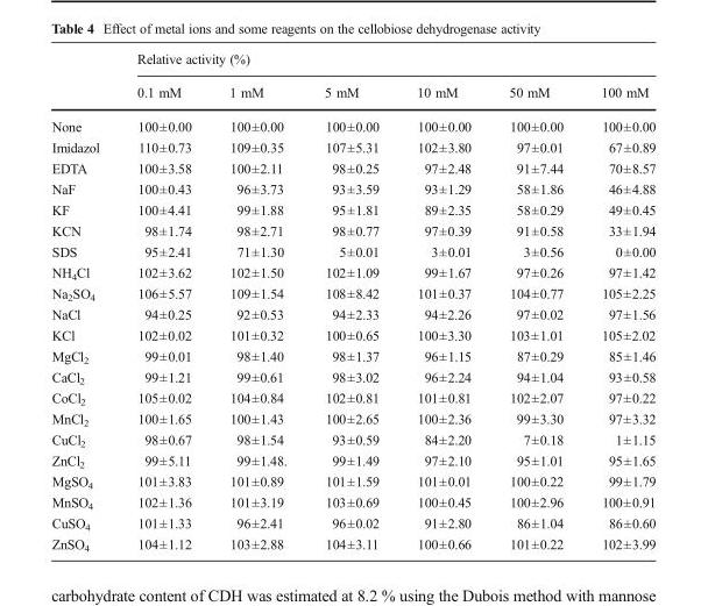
<table><thead><tr><td rowspan="2"></td><td colspan="6">Relative activity (%)</td></tr><tr><td>0.1 mM</td><td>1 mM</td><td>5 mM</td><td>10 mM</td><td>50 mM</td><td>100 mM</td></tr></thead><tbody><tr><td>None</td><td>100±0.00</td><td>100±0.00</td><td>100±0.00</td><td>100±0.00</td><td>100±0.00</td><td>100±0.00</td></tr><tr><td>Imidazol</td><td>110±0.73</td><td>109±0.35</td><td>107±5.31</td><td>102±3.80</td><td>97±0.01</td><td>67±0.89</td></tr><tr><td>EDTA</td><td>100±3.58</td><td>100±2.11</td><td>98±0.25</td><td>97±2.48</td><td>91±7.44</td><td>70±8.57</td></tr><tr><td>NaF</td><td>100±0.43</td><td>96±3.73</td><td>93±3.59</td><td>93±1.29</td><td>58±1.86</td><td>46±4.88</td></tr><tr><td>KF</td><td>100±4.41</td><td>99±1.88</td><td>95±1.81</td><td>89±2.35</td><td>58±0.29</td><td>49±0.45</td></tr><tr><td>KCN</td><td>98±1.74</td><td>98±2.71</td><td>98±0.77</td><td>97±0.39</td><td>91±0.58</td><td>33±1.94</td></tr><tr><td>SDS</td><td>95±2.41</td><td>71±1.30</td><td>5±0.01</td><td>3±0.01</td><td>3±0.56</td><td>0±0.00</td></tr><tr><td>NH<sub>4</sub>Cl</td><td>102±3.62</td><td>102±1.50</td><td>102±1.09</td><td>99±1.67</td><td>97±0.26</td><td>97±1.42</td></tr><tr><td>Na<sub>2</sub>SO<sub>4</sub></td><td>106±5.57</td><td>109±1.54</td><td>108±8.42</td><td>101±0.37</td><td>104±0.77</td><td>105±2.25</td></tr><tr><td>NaCl</td><td>94±0.25</td><td>92±0.53</td><td>94±2.33</td><td>94±2.26</td><td>97±0.02</td><td>97±1.56</td></tr><tr><td>KCl</td><td>102±0.02</td><td>101±0.32</td><td>100±0.65</td><td>100±3.30</td><td>103±1.01</td><td>105±2.02</td></tr><tr><td>MgCl<sub>2</sub></td><td>99±0.01</td><td>98±1.40</td><td>98±1.37</td><td>96±1.15</td><td>87±0.29</td><td>85±1.46</td></tr><tr><td>CaCl<sub>2</sub></td><td>99±1.21</td><td>99±0.61</td><td>98±3.02</td><td>96±2.24</td><td>94±1.04</td><td>93±0.58</td></tr><tr><td>CoCl<sub>2</sub></td><td>105±0.02</td><td>104±0.84</td><td>102±0.81</td><td>101±0.81</td><td>102±2.07</td><td>97±0.22</td></tr><tr><td>MnCl<sub>2</sub></td><td>100±1.65</td><td>100±1.43</td><td>100±2.65</td><td>100±2.36</td><td>99±3.30</td><td>97±3.32</td></tr><tr><td>CuCl<sub>2</sub></td><td>98±0.67</td><td>98±1.54</td><td>93±0.59</td><td>84±2.20</td><td>7±0.18</td><td>1±1.15</td></tr><tr><td>ZnCl<sub>2</sub></td><td>99±5.11</td><td>99±1.48.</td><td>99±1.49</td><td>97±2.10</td><td>95±1.01</td><td>95±1.65</td></tr><tr><td>MgSO<sub>4</sub></td><td>101±3.83</td><td>101±0.89</td><td>101±1.59</td><td>101±0.01</td><td>100±0.22</td><td>99±1.79</td></tr><tr><td>MnSO<sub>4</sub></td><td>102±1.36</td><td>101±3.19</td><td>103±0.69</td><td>100±0.45</td><td>100±2.96</td><td>100±0.91</td></tr><tr><td>CuSO<sub>4</sub></td><td>101±1.33</td><td>96±2.41</td><td>96±0.02</td><td>91±2.80</td><td>86±1.04</td><td>86±0.60</td></tr><tr><td>ZnSO<sub>4</sub></td><td>104±1.12</td><td>103±2.88</td><td>104±3.11</td><td>100±0.66</td><td>101±0.22</td><td>102±3.99</td></tr></tbody></table>